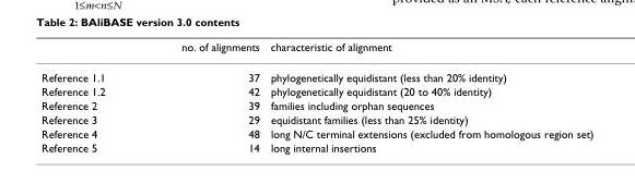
<table><thead><tr><td></td><td>no. of alignments</td><td>characteristic of alignment</td></tr></thead><tbody><tr><td>Reference 1.1</td><td>37</td><td>phylogenetically equidistant (less than 20% identity)</td></tr><tr><td>Reference 1.2</td><td>42</td><td>phylogenetically equidistant (20 to 40% identity)</td></tr><tr><td>Reference 2</td><td>39</td><td>families including orphan sequences</td></tr><tr><td>Reference 3</td><td>29</td><td>equidistant families (less than 25% identity)</td></tr><tr><td>Reference 4</td><td>48</td><td>long N/C terminal extensions (excluded from homologous region set)</td></tr><tr><td>Reference 5</td><td>14</td><td>long internal insertions</td></tr></tbody></table>